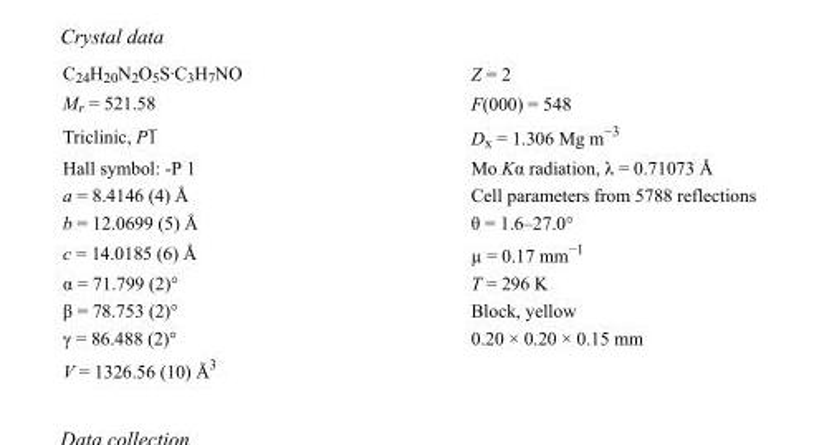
<table><tbody><tr><td>C<sub>24</sub>H<sub>20</sub>N<sub>2</sub>O<sub>5</sub>S·C<sub>3</sub>H<sub>7</sub>NO</td><td>Z = 2</td></tr><tr><td>M<sub>r</sub> = 521.58</td><td>F(000) = 548</td></tr><tr><td>Triclinic, P1</td><td>D<sub>x</sub> = 1.306 Mg m<sup>−3</sup></td></tr><tr><td>Hall symbol: -P 1</td><td>Mo Kα radiation, λ = 0.71073 Å</td></tr><tr><td>a = 8.4146 (4) Å</td><td>Cell parameters from 5788 reflections</td></tr><tr><td>b = 12.0699 (5) Å</td><td>θ = 1.6–27.0°</td></tr><tr><td>c = 14.0185 (6) Å</td><td>µ = 0.17 mm<sup>−1</sup></td></tr><tr><td>α = 71.799 (2)°</td><td>T = 296 K</td></tr><tr><td>β = 78.753 (2)°</td><td>Block, yellow</td></tr><tr><td>γ = 86.488 (2)°</td><td>0.20 × 0.20 × 0.15 mm</td></tr><tr><td>V = 1326.56 (10) Å<sup>3</sup></td><td></td></tr></tbody></table>